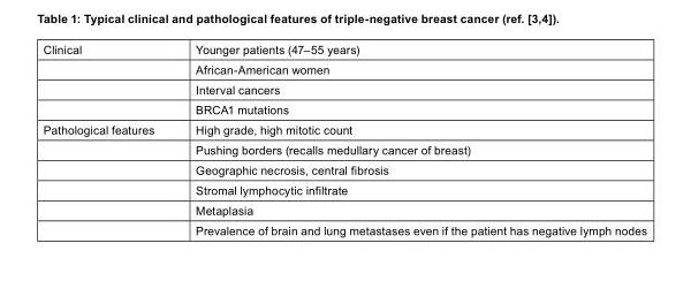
<table><tbody><tr><td rowspan="4">Clinical</td><td>Younger patients (47–55 years)</td></tr><tr><td>African-American women</td></tr><tr><td>Interval cancers</td></tr><tr><td>BRCA1 mutations</td></tr><tr><td rowspan="6">Pathological features</td><td>High grade, high mitotic count</td></tr><tr><td>Pushing borders (recalls medullary cancer of breast)</td></tr><tr><td>Geographic necrosis, central fibrosis</td></tr><tr><td>Stromal lymphocytic infiltrate</td></tr><tr><td>Metaplasia</td></tr><tr><td>Prevalence of brain and lung metastases even if the patient has negative lymph nodes</td></tr></tbody></table>